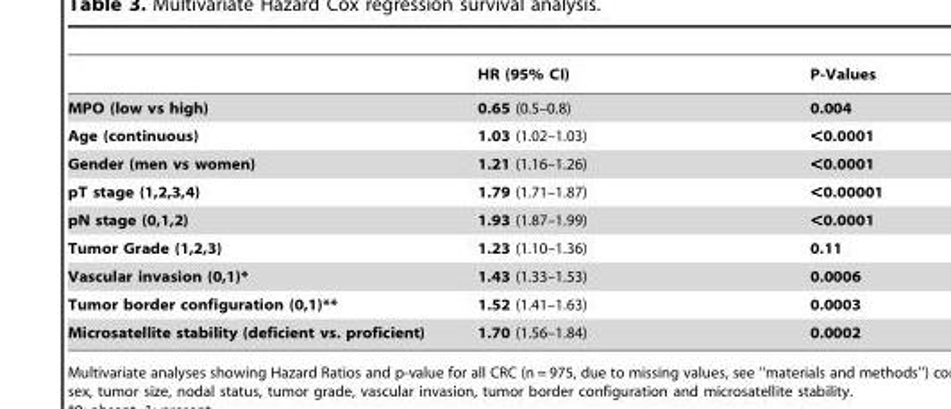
<table><thead><tr><td></td><td>HR (95% CI)</td><td>P-Values</td></tr></thead><tbody><tr><td>MPO (low vs high)</td><td>0.65 (0.5–0.8)</td><td>0.004</td></tr><tr><td>Age (continuous)</td><td>1.03 (1.02–1.03)</td><td>&lt;0.0001</td></tr><tr><td>Gender (men vs women)</td><td>1.21 (1.16–1.26)</td><td>&lt;0.0001</td></tr><tr><td>pT stage (1,2,3,4)</td><td>1.79 (1.71–1.87)</td><td>&lt;0.00001</td></tr><tr><td>pN stage (0,1,2)</td><td>1.93 (1.87–1.99)</td><td>&lt;0.0001</td></tr><tr><td>Tumor Grade (1,2,3)</td><td>1.23 (1.10–1.36)</td><td>0.11</td></tr><tr><td>Vascular invasion (0,1)*</td><td>1.43 (1.33–1.53)</td><td>0.0006</td></tr><tr><td>Tumor border configuration (0,1)**</td><td>1.52 (1.41–1.63)</td><td>0.0003</td></tr><tr><td>Microsatellite stability (deficient vs. proficient)</td><td>1.70 (1.56–1.84)</td><td>0.0002</td></tr></tbody></table>